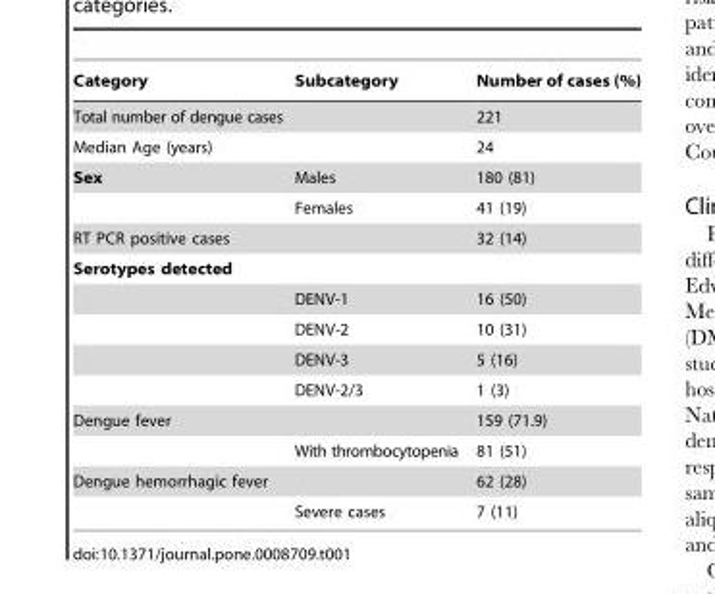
<table><thead><tr><td>Category</td><td>Subcategory</td><td>Number of cases (%)</td></tr></thead><tbody><tr><td>Total number of dengue cases</td><td></td><td>221</td></tr><tr><td>Median Age (years)</td><td></td><td>24</td></tr><tr><td rowspan="2">Sex</td><td>Males</td><td>180 (81)</td></tr><tr><td>Females</td><td>41 (19)</td></tr><tr><td>RT PCR positive cases</td><td></td><td>32 (14)</td></tr><tr><td colspan="3">Serotypes detected</td></tr><tr><td></td><td>DENV-1</td><td>16 (50)</td></tr><tr><td></td><td>DENV-2</td><td>10 (31)</td></tr><tr><td></td><td>DENV-3</td><td>5 (16)</td></tr><tr><td></td><td>DENV-2/3</td><td>1 (3)</td></tr><tr><td rowspan="2">Dengue fever</td><td></td><td>159 (71.9)</td></tr><tr><td>With thrombocytopenia</td><td>81 (51)</td></tr><tr><td rowspan="2">Dengue hemorrhagic fever</td><td></td><td>62 (28)</td></tr><tr><td>Severe cases</td><td>7 (11)</td></tr></tbody></table>